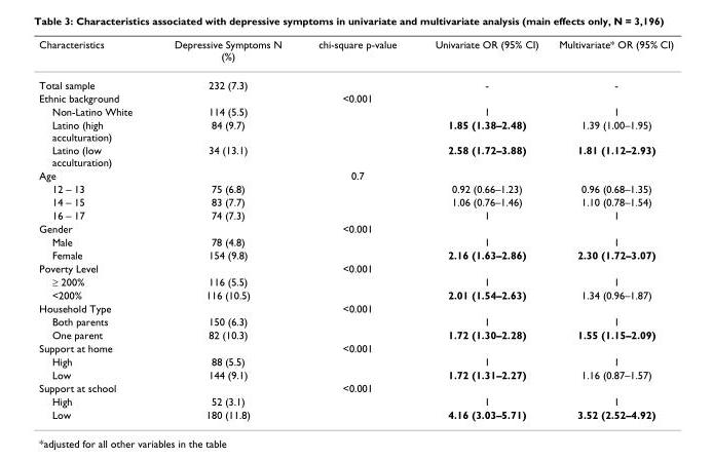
<table><thead><tr><td>Characteristics</td><td>Depressive Symptoms N (%)</td><td>chi-square p-value</td><td>Univariate OR (95% CI)</td><td>Multivariate* OR (95% CI)</td></tr></thead><tbody><tr><td>Total sample</td><td>232 (7.3)</td><td></td><td>-</td><td>-</td></tr><tr><td>Ethnic background</td><td></td><td>&lt;0.001</td><td></td><td></td></tr><tr><td>Non-Latino White</td><td>114 (5.5)</td><td></td><td>1</td><td>1</td></tr><tr><td>Latino (high acculturation)</td><td>84 (9.7)</td><td></td><td>1.85 (1.38–2.48)</td><td>1.39 (1.00–1.95)</td></tr><tr><td>Latino (low acculturation)</td><td>34 (13.1)</td><td></td><td>2.58 (1.72–3.88)</td><td>1.81 (1.12–2.93)</td></tr><tr><td>Age</td><td></td><td>0.7</td><td></td><td></td></tr><tr><td>12 – 13</td><td>75 (6.8)</td><td></td><td>0.92 (0.66–1.23)</td><td>0.96 (0.68–1.35)</td></tr><tr><td>14 – 15</td><td>83 (7.7)</td><td></td><td>1.06 (0.76–1.46)</td><td>1.10 (0.78–1.54)</td></tr><tr><td>16 – 17</td><td>74 (7.3)</td><td></td><td>1</td><td>1</td></tr><tr><td>Gender</td><td></td><td>&lt;0.001</td><td></td><td></td></tr><tr><td>Male</td><td>78 (4.8)</td><td></td><td>1</td><td>1</td></tr><tr><td>Female</td><td>154 (9.8)</td><td></td><td>2.16 (1.63–2.86)</td><td>2.30 (1.72–3.07)</td></tr><tr><td>Poverty Level</td><td></td><td>&lt;0.001</td><td></td><td></td></tr><tr><td>≥ 200%</td><td>116 (5.5)</td><td></td><td>1</td><td>1</td></tr><tr><td>&lt;200%</td><td>116 (10.5)</td><td></td><td>2.01 (1.54–2.63)</td><td>1.34 (0.96–1.87)</td></tr><tr><td>Household Type</td><td></td><td>&lt;0.001</td><td></td><td></td></tr><tr><td>Both parents</td><td>150 (6.3)</td><td></td><td>1</td><td>1</td></tr><tr><td>One parent</td><td>82 (10.3)</td><td></td><td>1.72 (1.30–2.28)</td><td>1.55 (1.15–2.09)</td></tr><tr><td>Support at home</td><td></td><td>&lt;0.001</td><td></td><td></td></tr><tr><td>High</td><td>88 (5.5)</td><td></td><td>1</td><td>1</td></tr><tr><td>Low</td><td>144 (9.1)</td><td></td><td>1.72 (1.31–2.27)</td><td>1.16 (0.87–1.57)</td></tr><tr><td>Support at school</td><td></td><td>&lt;0.001</td><td></td><td></td></tr><tr><td>High</td><td>52 (3.1)</td><td></td><td>1</td><td>1</td></tr><tr><td>Low</td><td>180 (11.8)</td><td></td><td>4.16 (3.03–5.71)</td><td>3.52 (2.52–4.92)</td></tr></tbody></table>